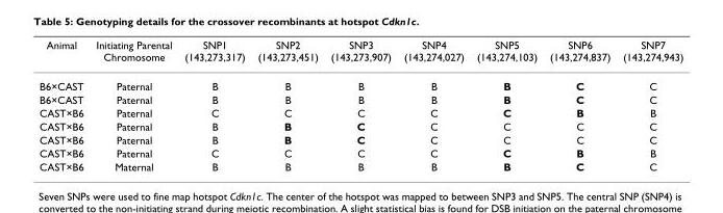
<table><thead><tr><td>Animal</td><td>Initiating Parental Chromosome</td><td>SNP1 (143,273,317)</td><td>SNP2 (143,273,451)</td><td>SNP3 (143,273,907)</td><td>SNP4 (143,274,027)</td><td>SNP5 (143,274,103)</td><td>SNP6 (143,274,837)</td><td>SNP7 (143,274,943)</td></tr></thead><tbody><tr><td>B6×CAST</td><td>Paternal</td><td>B</td><td>B</td><td>B</td><td>B</td><td>B</td><td>C</td><td>C</td></tr><tr><td>B6×CAST</td><td>Paternal</td><td>B</td><td>B</td><td>B</td><td>B</td><td>B</td><td>C</td><td>C</td></tr><tr><td>CAST×B6</td><td>Paternal</td><td>C</td><td>C</td><td>C</td><td>C</td><td>C</td><td>B</td><td>B</td></tr><tr><td>CAST×B6</td><td>Paternal</td><td>B</td><td>B</td><td>C</td><td>C</td><td>C</td><td>C</td><td>C</td></tr><tr><td>CAST×B6</td><td>Paternal</td><td>B</td><td>B</td><td>C</td><td>C</td><td>C</td><td>C</td><td>C</td></tr><tr><td>CAST×B6</td><td>Paternal</td><td>C</td><td>C</td><td>C</td><td>C</td><td>C</td><td>B</td><td>B</td></tr><tr><td>CAST×B6</td><td>Maternal</td><td>B</td><td>B</td><td>B</td><td>B</td><td>B</td><td>C</td><td>C</td></tr></tbody></table>